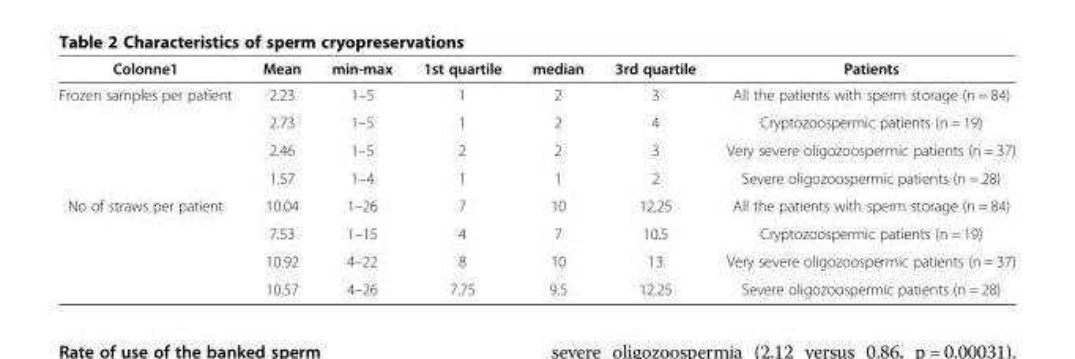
<table><thead><tr><td>Colonne1</td><td>Mean</td><td>min-max</td><td>1st quartile</td><td>median</td><td>3rd quartile</td><td>Patients</td></tr></thead><tbody><tr><td rowspan="4">Frozen samples per patient</td><td>2.23</td><td>1–5</td><td>1</td><td>2</td><td>3</td><td>All the patients with sperm storage (n = 84)</td></tr><tr><td>2.73</td><td>1–5</td><td>1</td><td>2</td><td>4</td><td>Cryptozoospermic patients (n = 19)</td></tr><tr><td>2.46</td><td>1–5</td><td>2</td><td>2</td><td>3</td><td>Very severe oligozoospermic patients (n = 37)</td></tr><tr><td>1.57</td><td>1–4</td><td>1</td><td>1</td><td>2</td><td>Severe oligozoospermic patients (n = 28)</td></tr><tr><td rowspan="4">No of straws per patient</td><td>10.04</td><td>1–26</td><td>7</td><td>10</td><td>12,25</td><td>All the patients with sperm storage (n = 84)</td></tr><tr><td>7.53</td><td>1–15</td><td>4</td><td>7</td><td>10.5</td><td>Cryptozoospermic patients (n = 19)</td></tr><tr><td>10.92</td><td>4–22</td><td>8</td><td>10</td><td>13</td><td>Very severe oligozoospermic patients (n = 37)</td></tr><tr><td>10.57</td><td>4–26</td><td>7.75</td><td>9.5</td><td>12.25</td><td>Severe oligozoospermic patients (n = 28)</td></tr></tbody></table>